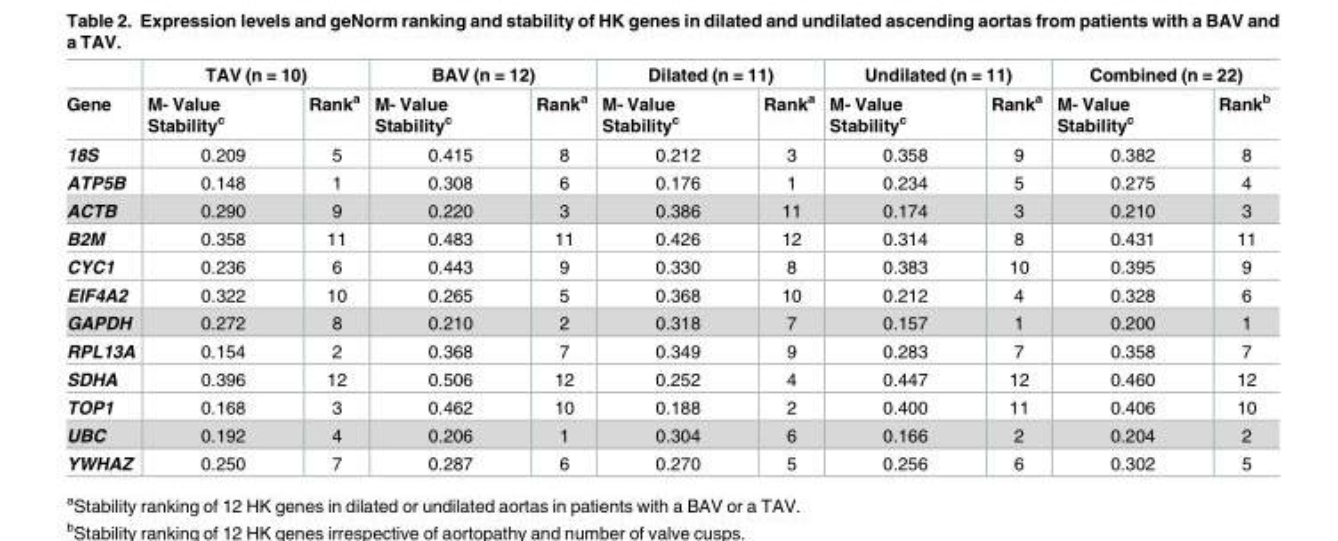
<table><thead><tr><td rowspan="2">Gene</td><td colspan="2">TAV (n = 10)</td><td colspan="2">BAV (n = 12)</td><td colspan="2">Dilated (n = 11)</td><td colspan="2">Undilated (n = 11)</td><td colspan="2">Combined (n = 22)</td></tr><tr><td>M- Value Stability<sup>c</sup></td><td>Rank<sup>a</sup></td><td>M- Value Stability<sup>c</sup></td><td>Rank<sup>a</sup></td><td>M- Value Stability<sup>c</sup></td><td>Rank<sup>a</sup></td><td>M- Value Stability<sup>c</sup></td><td>Rank<sup>a</sup></td><td>M- Value Stability<sup>c</sup></td><td>Rank<sup>b</sup></td></tr></thead><tbody><tr><td>18S</td><td>0.209</td><td>5</td><td>0.415</td><td>8</td><td>0.212</td><td>3</td><td>0.358</td><td>9</td><td>0.382</td><td>8</td></tr><tr><td>ATP5B</td><td>0.148</td><td>1</td><td>0.308</td><td>6</td><td>0.176</td><td>1</td><td>0.234</td><td>5</td><td>0.275</td><td>4</td></tr><tr><td>ACTB</td><td>0.290</td><td>9</td><td>0.220</td><td>3</td><td>0.386</td><td>11</td><td>0.174</td><td>3</td><td>0.210</td><td>3</td></tr><tr><td>B2M</td><td>0.358</td><td>11</td><td>0.483</td><td>11</td><td>0.426</td><td>12</td><td>0.314</td><td>8</td><td>0.431</td><td>11</td></tr><tr><td>CYC1</td><td>0.236</td><td>6</td><td>0.443</td><td>9</td><td>0.330</td><td>8</td><td>0.383</td><td>10</td><td>0.395</td><td>9</td></tr><tr><td>EIF4A2</td><td>0.322</td><td>10</td><td>0.265</td><td>5</td><td>0.368</td><td>10</td><td>0.212</td><td>4</td><td>0.328</td><td>6</td></tr><tr><td>GAPDH</td><td>0.272</td><td>8</td><td>0.210</td><td>2</td><td>0.318</td><td>7</td><td>0.157</td><td>1</td><td>0.200</td><td>1</td></tr><tr><td>RPL13A</td><td>0.154</td><td>2</td><td>0.368</td><td>7</td><td>0.349</td><td>9</td><td>0.283</td><td>7</td><td>0.358</td><td>7</td></tr><tr><td>SDHA</td><td>0.396</td><td>12</td><td>0.506</td><td>12</td><td>0.252</td><td>4</td><td>0.447</td><td>12</td><td>0.460</td><td>12</td></tr><tr><td>TOP1</td><td>0.168</td><td>3</td><td>0.462</td><td>10</td><td>0.188</td><td>2</td><td>0.400</td><td>11</td><td>0.406</td><td>10</td></tr><tr><td>UBC</td><td>0.192</td><td>4</td><td>0.206</td><td>1</td><td>0.304</td><td>6</td><td>0.166</td><td>2</td><td>0.204</td><td>2</td></tr><tr><td>YWHAZ</td><td>0.250</td><td>7</td><td>0.287</td><td>6</td><td>0.270</td><td>5</td><td>0.256</td><td>6</td><td>0.302</td><td>5</td></tr></tbody></table>